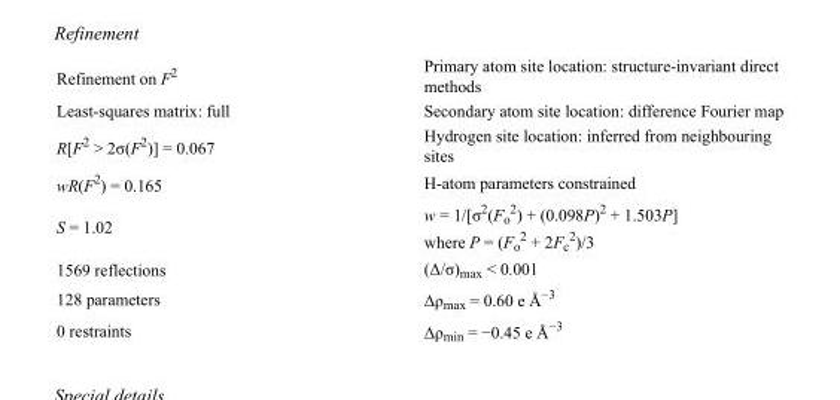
<table><tbody><tr><td>Refinement on F<sup>2</sup></td><td>Primary atom site location: structure-invariant direct methods</td></tr><tr><td>Least-squares matrix: full</td><td>Secondary atom site location: difference Fourier map</td></tr><tr><td>R[F<sup>2</sup> &gt; 2σ(F<sup>2</sup>)] = 0.067</td><td>Hydrogen site location: inferred from neighbouring sites</td></tr><tr><td>wR(F<sup>2</sup>) = 0.165</td><td>H-atom parameters constrained</td></tr><tr><td>S = 1.02</td><td>w = 1/[σ<sup>2</sup>(F<sub>o</sub> <sup>2</sup>) + (0.098P)<sup>2</sup> + 1.503P] where P = (F<sub>o</sub> <sup>2</sup> + 2F<sub>c</sub> <sup>2</sup>)/3</td></tr><tr><td>1569 reflections</td><td>(Δ/σ)<sub>max</sub> &lt; 0.001</td></tr><tr><td>128 parameters</td><td>Δρ<sub>max</sub> = 0.60 e Å<sup>−3</sup></td></tr><tr><td>0 restraints</td><td>Δρ<sub>min</sub> = −0.45 e Å<sup>−3</sup></td></tr></tbody></table>